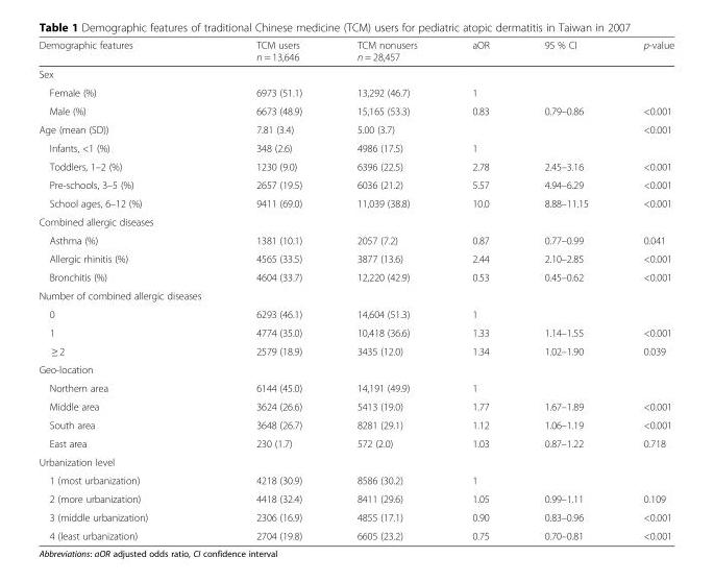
<table><thead><tr><td>Demographic features</td><td>TCM users n = 13,646</td><td>TCM nonusers n = 28,457</td><td>aOR</td><td>95 % CI</td><td>p-value</td></tr></thead><tbody><tr><td colspan="6">Sex</td></tr><tr><td>Female (%)</td><td>6973 (51.1)</td><td>13,292 (46.7)</td><td>1</td><td></td><td></td></tr><tr><td>Male (%)</td><td>6673 (48.9)</td><td>15,165 (53.3)</td><td>0.83</td><td>0.79–0.86</td><td>&lt;0.001</td></tr><tr><td>Age (mean (SD))</td><td>7.81 (3.4)</td><td>5.00 (3.7)</td><td></td><td></td><td>&lt;0.001</td></tr><tr><td>Infants, &lt;1 (%)</td><td>348 (2.6)</td><td>4986 (17.5)</td><td>1</td><td></td><td></td></tr><tr><td>Toddlers, 1–2 (%)</td><td>1230 (9.0)</td><td>6396 (22.5)</td><td>2.78</td><td>2.45–3.16</td><td>&lt;0.001</td></tr><tr><td>Pre-schools, 3–5 (%)</td><td>2657 (19.5)</td><td>6036 (21.2)</td><td>5.57</td><td>4.94–6.29</td><td>&lt;0.001</td></tr><tr><td>School ages, 6–12 (%)</td><td>9411 (69.0)</td><td>11,039 (38.8)</td><td>10.0</td><td>8.88–11.15</td><td>&lt;0.001</td></tr><tr><td colspan="6">Combined allergic diseases</td></tr><tr><td>Asthma (%)</td><td>1381 (10.1)</td><td>2057 (7.2)</td><td>0.87</td><td>0.77–0.99</td><td>0.041</td></tr><tr><td>Allergic rhinitis (%)</td><td>4565 (33.5)</td><td>3877 (13.6)</td><td>2.44</td><td>2.10–2.85</td><td>&lt;0.001</td></tr><tr><td>Bronchitis (%)</td><td>4604 (33.7)</td><td>12,220 (42.9)</td><td>0.53</td><td>0.45–0.62</td><td>&lt;0.001</td></tr><tr><td colspan="6">Number of combined allergic diseases</td></tr><tr><td>0</td><td>6293 (46.1)</td><td>14,604 (51.3)</td><td>1</td><td></td><td></td></tr><tr><td>1</td><td>4774 (35.0)</td><td>10,418 (36.6)</td><td>1.33</td><td>1.14–1.55</td><td>&lt;0.001</td></tr><tr><td>≥ 2</td><td>2579 (18.9)</td><td>3435 (12.0)</td><td>1.34</td><td>1.02–1.90</td><td>0.039</td></tr><tr><td colspan="6">Geo-location</td></tr><tr><td>Northern area</td><td>6144 (45.0)</td><td>14,191 (49.9)</td><td>1</td><td></td><td></td></tr><tr><td>Middle area</td><td>3624 (26.6)</td><td>5413 (19.0)</td><td>1.77</td><td>1.67–1.89</td><td>&lt;0.001</td></tr><tr><td>South area</td><td>3648 (26.7)</td><td>8281 (29.1)</td><td>1.12</td><td>1.06–1.19</td><td>&lt;0.001</td></tr><tr><td>East area</td><td>230 (1.7)</td><td>572 (2.0)</td><td>1.03</td><td>0.87–1.22</td><td>0.718</td></tr><tr><td colspan="6">Urbanization level</td></tr><tr><td>1 (most urbanization)</td><td>4218 (30.9)</td><td>8586 (30.2)</td><td>1</td><td></td><td></td></tr><tr><td>2 (more urbanization)</td><td>4418 (32.4)</td><td>8411 (29.6)</td><td>1.05</td><td>0.99–1.11</td><td>0.109</td></tr><tr><td>3 (middle urbanization)</td><td>2306 (16.9)</td><td>4855 (17.1)</td><td>0.90</td><td>0.83–0.96</td><td>&lt;0.001</td></tr><tr><td>4 (least urbanization)</td><td>2704 (19.8)</td><td>6605 (23.2)</td><td>0.75</td><td>0.70–0.81</td><td>&lt;0.001</td></tr></tbody></table>